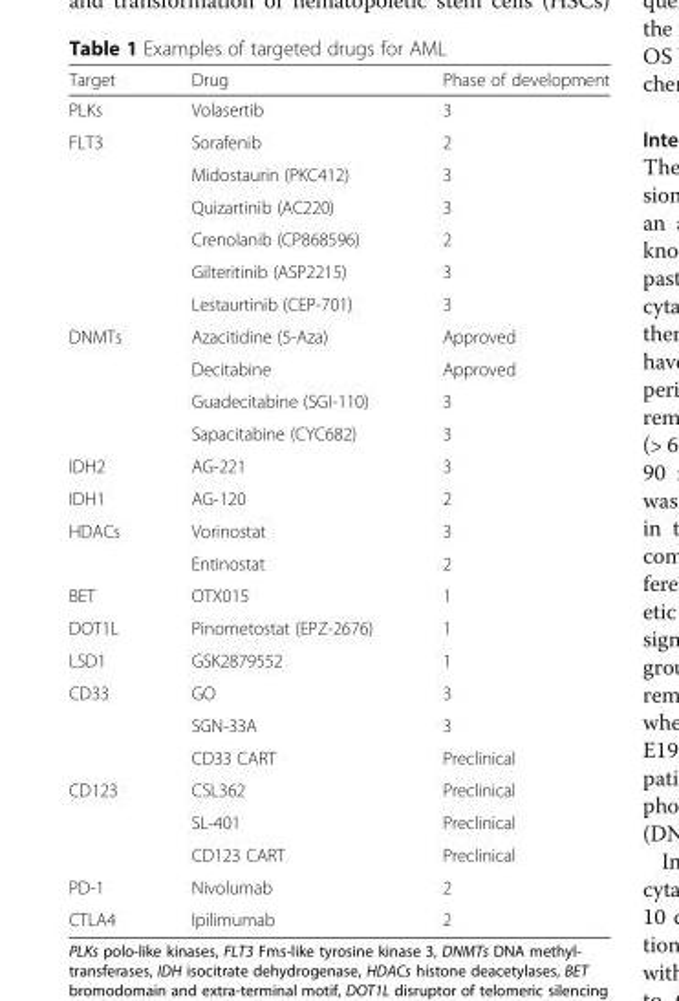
<table><thead><tr><td>Target</td><td>Drug</td><td>Phase of development</td></tr></thead><tbody><tr><td>PLKs</td><td>Volasertib</td><td>3</td></tr><tr><td rowspan="6">FLT3</td><td>Sorafenib</td><td>2</td></tr><tr><td>Midostaurin (PKC412)</td><td>3</td></tr><tr><td>Quizartinib (AC220)</td><td>3</td></tr><tr><td>Crenolanib (CP868596)</td><td>2</td></tr><tr><td>Gilteritinib (ASP2215)</td><td>3</td></tr><tr><td>Lestaurtinib (CEP-701)</td><td>3</td></tr><tr><td rowspan="4">DNMTs</td><td>Azacitidine (5-Aza)</td><td>Approved</td></tr><tr><td>Decitabine</td><td>Approved</td></tr><tr><td>Guadecitabine (SGI-110)</td><td>3</td></tr><tr><td>Sapacitabine (CYC682)</td><td>3</td></tr><tr><td>IDH2</td><td>AG-221</td><td>3</td></tr><tr><td>IDH1</td><td>AG-120</td><td>2</td></tr><tr><td rowspan="2">HDACs</td><td>Vorinostat</td><td>3</td></tr><tr><td>Entinostat</td><td>2</td></tr><tr><td>BET</td><td>OTX015</td><td>1</td></tr><tr><td>DOT1L</td><td>Pinometostat (EPZ-2676)</td><td>1</td></tr><tr><td>LSD1</td><td>GSK2879552</td><td>1</td></tr><tr><td rowspan="3">CD33</td><td>GO</td><td>3</td></tr><tr><td>SGN-33A</td><td>3</td></tr><tr><td>CD33 CART</td><td>Preclinical</td></tr><tr><td rowspan="3">CD123</td><td>CSL362</td><td>Preclinical</td></tr><tr><td>SL-401</td><td>Preclinical</td></tr><tr><td>CD123 CART</td><td>Preclinical</td></tr><tr><td>PD-1</td><td>Nivolumab</td><td>2</td></tr><tr><td>CTLA4</td><td>Ipilimumab</td><td>2</td></tr></tbody></table>